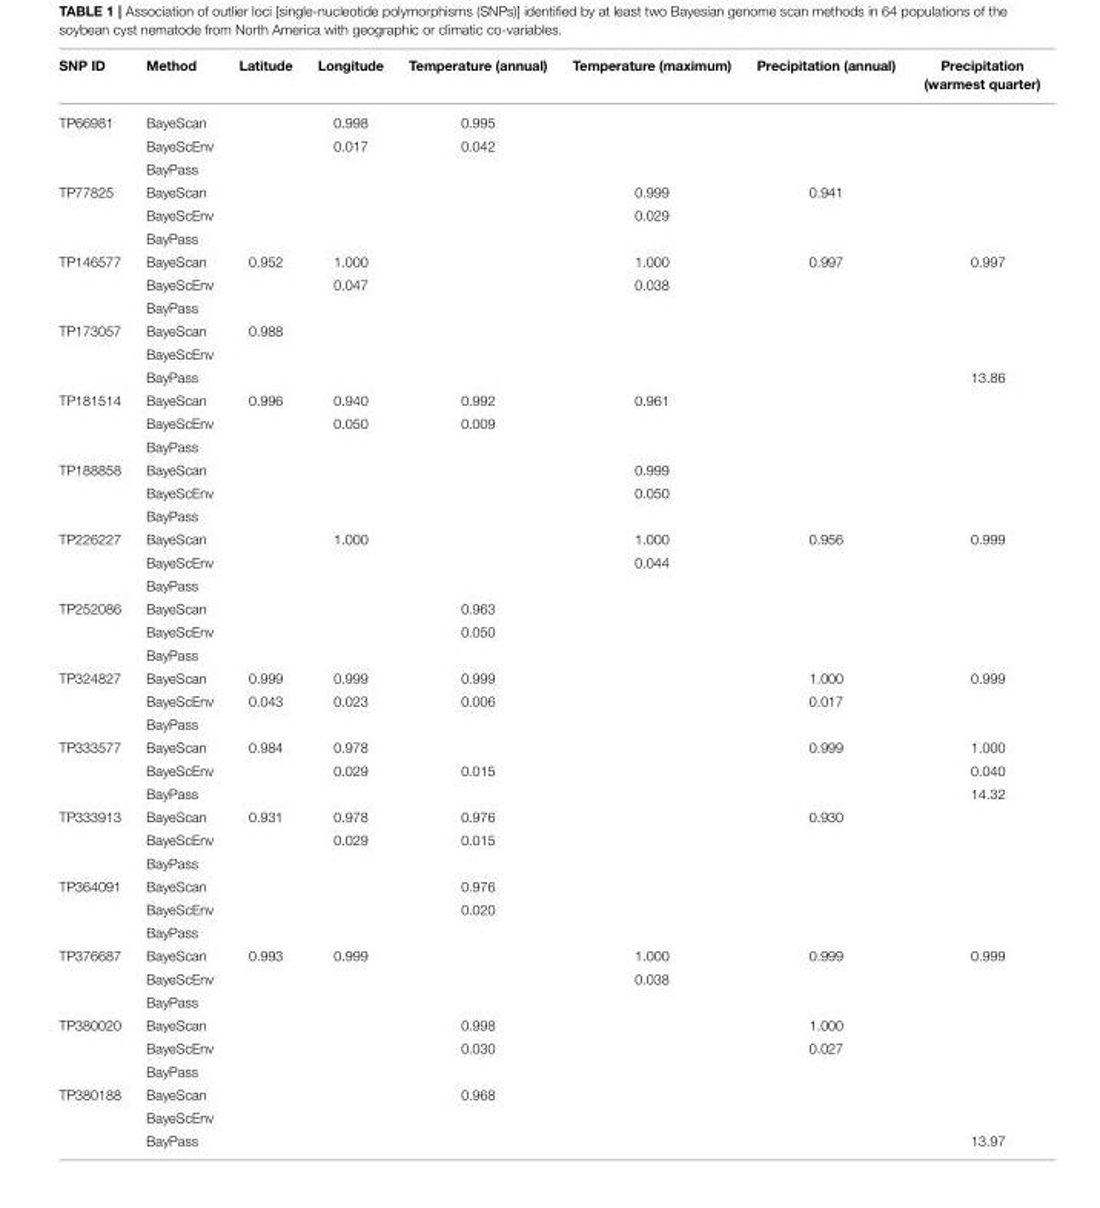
<table><thead><tr><td>SNP ID</td><td>Method</td><td>Latitude</td><td>Longitude</td><td>Temperature (annual)</td><td>Temperature (maximum)</td><td>Precipitation (annual)</td><td>Precipitation (warmest quarter)</td></tr></thead><tbody><tr><td rowspan="3">TP66981</td><td>BayeScan</td><td></td><td>0.998</td><td>0.995</td><td></td><td></td><td></td></tr><tr><td>BayeScEnv</td><td></td><td>0.017</td><td>0.042</td><td></td><td></td><td></td></tr><tr><td>BayPass</td><td></td><td></td><td></td><td></td><td></td><td></td></tr><tr><td rowspan="3">TP77825</td><td>BayeScan</td><td></td><td></td><td></td><td>0.999</td><td>0.941</td><td></td></tr><tr><td>BayeScEnv</td><td></td><td></td><td></td><td>0.029</td><td></td><td></td></tr><tr><td>BayPass</td><td></td><td></td><td></td><td></td><td></td><td></td></tr><tr><td rowspan="3">TP146577</td><td>BayeScan</td><td>0.952</td><td>1.000</td><td></td><td>1.000</td><td>0.997</td><td>0.997</td></tr><tr><td>BayeScEnv</td><td></td><td>0.047</td><td></td><td>0.038</td><td></td><td></td></tr><tr><td>BayPass</td><td></td><td></td><td></td><td></td><td></td><td></td></tr><tr><td rowspan="3">TP173057</td><td>BayeScan</td><td>0.988</td><td></td><td></td><td></td><td></td><td></td></tr><tr><td>BayeScEnv</td><td></td><td></td><td></td><td></td><td></td><td></td></tr><tr><td>BayPass</td><td></td><td></td><td></td><td></td><td></td><td>13.86</td></tr><tr><td rowspan="3">TP181514</td><td>BayeScan</td><td>0.996</td><td>0.940</td><td>0.992</td><td>0.961</td><td></td><td></td></tr><tr><td>BayeScEnv</td><td></td><td>0.050</td><td>0.009</td><td></td><td></td><td></td></tr><tr><td>BayPass</td><td></td><td></td><td></td><td></td><td></td><td></td></tr><tr><td rowspan="3">TP188858</td><td>BayeScan</td><td></td><td></td><td></td><td>0.999</td><td></td><td></td></tr><tr><td>BayeScEnv</td><td></td><td></td><td></td><td>0.050</td><td></td><td></td></tr><tr><td>BayPass</td><td></td><td></td><td></td><td></td><td></td><td></td></tr><tr><td rowspan="3">TP226227</td><td>BayeScan</td><td></td><td>1.000</td><td></td><td>1.000</td><td>0.956</td><td>0.999</td></tr><tr><td>BayeScEnv</td><td></td><td></td><td></td><td>0.044</td><td></td><td></td></tr><tr><td>BayPass</td><td></td><td></td><td></td><td></td><td></td><td></td></tr><tr><td rowspan="3">TP252086</td><td>BayeScan</td><td></td><td></td><td>0.963</td><td></td><td></td><td></td></tr><tr><td>BayeScEnv</td><td></td><td></td><td>0.050</td><td></td><td></td><td></td></tr><tr><td>BayPass</td><td></td><td></td><td></td><td></td><td></td><td></td></tr><tr><td rowspan="3">TP324827</td><td>BayeScan</td><td>0.999</td><td>0.999</td><td>0.999</td><td></td><td>1.000</td><td>0.999</td></tr><tr><td>BayeScEnv</td><td>0.043</td><td>0.023</td><td>0.006</td><td></td><td>0.017</td><td></td></tr><tr><td>BayPass</td><td></td><td></td><td></td><td></td><td></td><td></td></tr><tr><td rowspan="3">TP333577</td><td>BayeScan</td><td>0.984</td><td>0.978</td><td></td><td></td><td>0.999</td><td>1.000</td></tr><tr><td>BayeScEnv</td><td></td><td>0.029</td><td>0.015</td><td></td><td></td><td>0.040</td></tr><tr><td>BayPass</td><td></td><td></td><td></td><td></td><td></td><td>14.32</td></tr><tr><td rowspan="3">TP333913</td><td>BayeScan</td><td>0.931</td><td>0.978</td><td>0.976</td><td></td><td>0.930</td><td></td></tr><tr><td>BayeScEnv</td><td></td><td>0.029</td><td>0.015</td><td></td><td></td><td></td></tr><tr><td>BayPass</td><td></td><td></td><td></td><td></td><td></td><td></td></tr><tr><td rowspan="3">TP364091</td><td>BayeScan</td><td></td><td></td><td>0.976</td><td></td><td></td><td></td></tr><tr><td>BayeScEnv</td><td></td><td></td><td>0.020</td><td></td><td></td><td></td></tr><tr><td>BayPass</td><td></td><td></td><td></td><td></td><td></td><td></td></tr><tr><td rowspan="3">TP376687</td><td>BayeScan</td><td>0.993</td><td>0.999</td><td></td><td>1.000</td><td>0.999</td><td>0.999</td></tr><tr><td>BayeScEnv</td><td></td><td></td><td></td><td>0.038</td><td></td><td></td></tr><tr><td>BayPass</td><td></td><td></td><td></td><td></td><td></td><td></td></tr><tr><td rowspan="3">TP380020</td><td>BayeScan</td><td></td><td></td><td>0.998</td><td></td><td>1.000</td><td></td></tr><tr><td>BayeScEnv</td><td></td><td></td><td>0.030</td><td></td><td>0.027</td><td></td></tr><tr><td>BayPass</td><td></td><td></td><td></td><td></td><td></td><td></td></tr><tr><td rowspan="3">TP380188</td><td>BayeScan</td><td></td><td></td><td>0.968</td><td></td><td></td><td></td></tr><tr><td>BayeScEnv</td><td></td><td></td><td></td><td></td><td></td><td></td></tr><tr><td>BayPass</td><td></td><td></td><td></td><td></td><td></td><td>13.97</td></tr></tbody></table>